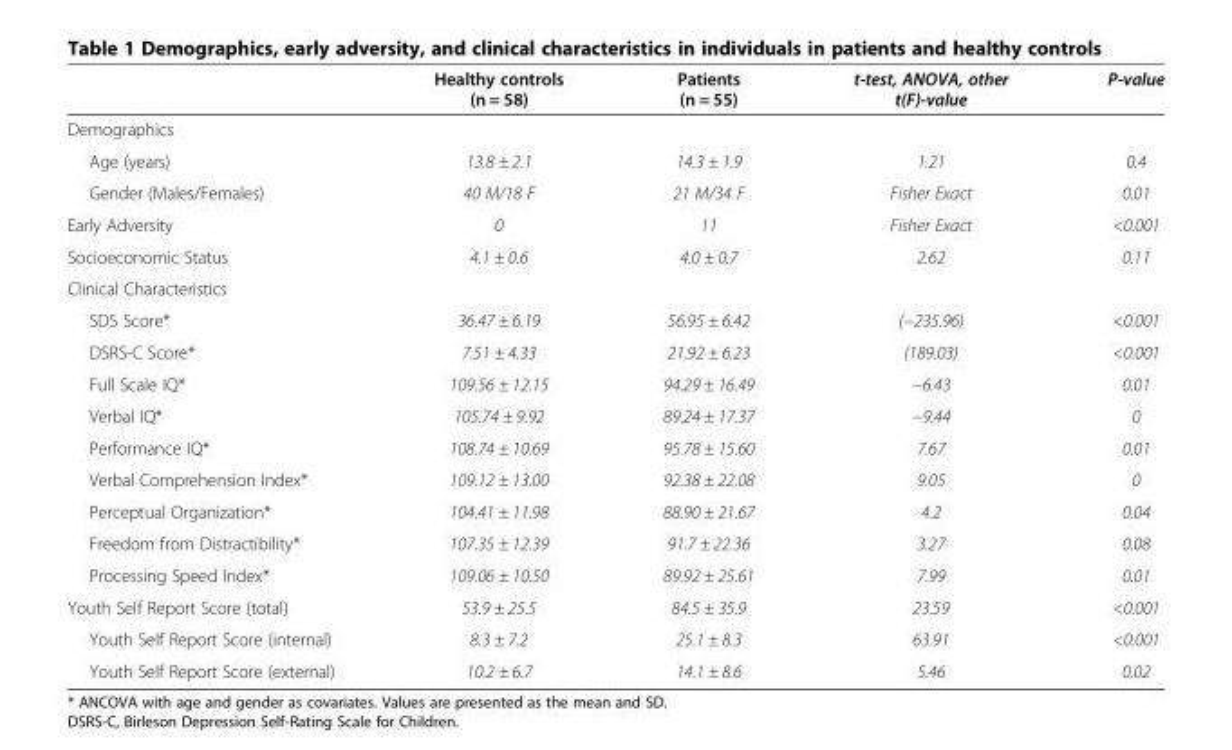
<table><thead><tr><td></td><td>Healthy controls (n = 58)</td><td>Patients (n = 55)</td><td>t-test, ANOVA, other t(F)-value</td><td>P-value</td></tr></thead><tbody><tr><td colspan="5">Demographics</td></tr><tr><td>Age (years)</td><td>13.8 ± 2.1</td><td>14.3 ± 1.9</td><td>1.21</td><td>0.4</td></tr><tr><td>Gender (Males/Females)</td><td>40 M/18 F</td><td>21 M/34 F</td><td>Fisher Exact</td><td>0.01</td></tr><tr><td>Early Adversity</td><td>0</td><td>11</td><td>Fisher Exact</td><td>&lt;0.001</td></tr><tr><td>Socioeconomic Status</td><td>4.1 ± 0.6</td><td>4.0 ± 0.7</td><td>2.62</td><td>0.11</td></tr><tr><td colspan="5">Clinical Characteristics</td></tr><tr><td>SDS Score*</td><td>36.47 ± 6.19</td><td>56.95 ± 6.42</td><td>(−235.96)</td><td>&lt;0.001</td></tr><tr><td>DSRS-C Score*</td><td>7.51 ± 4.33</td><td>21.92 ± 6.23</td><td>(189.03)</td><td>&lt;0.001</td></tr><tr><td>Full Scale IQ*</td><td>109.56 ± 12.15</td><td>94.29 ± 16.49</td><td>−6.43</td><td>0.01</td></tr><tr><td>Verbal IQ*</td><td>105.74 ± 9.92</td><td>89.24 ± 17.37</td><td>−9.44</td><td>0</td></tr><tr><td>Performance IQ*</td><td>108.74 ± 10.69</td><td>95.78 ± 15.60</td><td>7.67</td><td>0.01</td></tr><tr><td>Verbal Comprehension Index*</td><td>109.12 ± 13.00</td><td>92.38 ± 22.08</td><td>9.05</td><td>0</td></tr><tr><td>Perceptual Organization*</td><td>104.41 ± 11.98</td><td>88.90 ± 21.67</td><td>4.2</td><td>0.04</td></tr><tr><td>Freedom from Distractibility*</td><td>107.35 ± 12.39</td><td>91.7 ± 22.36</td><td>3.27</td><td>0.08</td></tr><tr><td>Processing Speed Index*</td><td>109.06 ± 10.50</td><td>89.92 ± 25.61</td><td>7.99</td><td>0.01</td></tr><tr><td>Youth Self Report Score (total)</td><td>53.9 ± 25.5</td><td>84.5 ± 35.9</td><td>23.59</td><td>&lt;0.001</td></tr><tr><td>Youth Self Report Score (internal)</td><td>8.3 ± 7.2</td><td>25.1 ± 8.3</td><td>63.91</td><td>&lt;0.001</td></tr><tr><td>Youth Self Report Score (external)</td><td>10.2 ± 6.7</td><td>14.1 ± 8.6</td><td>5.46</td><td>0.02</td></tr></tbody></table>